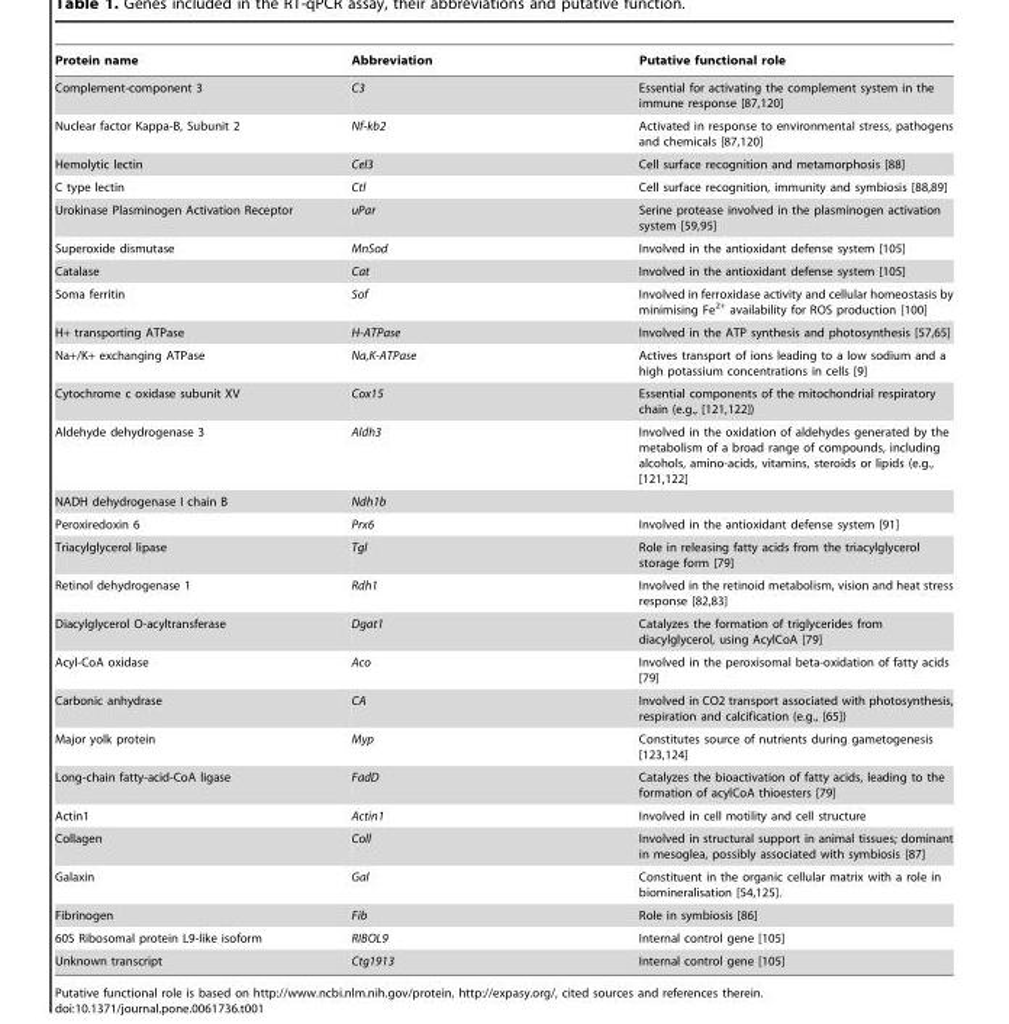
<table><thead><tr><td>Protein name</td><td>Abbreviation</td><td>Putative functional role</td></tr></thead><tbody><tr><td>Complement-component 3</td><td>C3</td><td>Essential for activating the complement system in the immune response [87,120]</td></tr><tr><td>Nuclear factor Kappa-B, Subunit 2</td><td>Nf-kb2</td><td>Activated in response to environmental stress, pathogens and chemicals [87,120]</td></tr><tr><td>Hemolytic lectin</td><td>Cel3</td><td>Cell surface recognition and metamorphosis [88]</td></tr><tr><td>C type lectin</td><td>Ctl</td><td>Cell surface recognition, immunity and symbiosis [88,89]</td></tr><tr><td>Urokinase Plasminogen Activation Receptor</td><td>uPar</td><td>Serine protease involved in the plasminogen activation system [59,95]</td></tr><tr><td>Superoxide dismutase</td><td>MnSod</td><td>Involved in the antioxidant defense system [105]</td></tr><tr><td>Catalase</td><td>Cat</td><td>Involved in the antioxidant defense system [105]</td></tr><tr><td>Soma ferritin</td><td>Sof</td><td>Involved in ferroxidase activity and cellular homeostasis by minimising Fe<sup>2+</sup> availability for ROS production [100]</td></tr><tr><td>H+ transporting ATPase</td><td>H-ATPase</td><td>Involved in the ATP synthesis and photosynthesis [57,65]</td></tr><tr><td>Na+/K+ exchanging ATPase</td><td>Na,K-ATPase</td><td>Actives transport of ions leading to a low sodium and a high potassium concentrations in cells [9]</td></tr><tr><td>Cytochrome c oxidase subunit XV</td><td>Cox15</td><td>Essential components of the mitochondrial respiratory chain (e.g., [121,122])</td></tr><tr><td>Aldehyde dehydrogenase 3</td><td>Aldh3</td><td>Involved in the oxidation of aldehydes generated by the metabolism of a broad range of compounds, including alcohols, amino-acids, vitamins, steroids or lipids (e.g., [121,122]</td></tr><tr><td>NADH dehydrogenase I chain B</td><td>Ndh1b</td><td></td></tr><tr><td>Peroxiredoxin 6</td><td>Prx6</td><td>Involved in the antioxidant defense system [91]</td></tr><tr><td>Triacylglycerol lipase</td><td>Tgl</td><td>Role in releasing fatty acids from the triacylglycerol storage form [79]</td></tr><tr><td>Retinol dehydrogenase 1</td><td>Rdh1</td><td>Involved in the retinoid metabolism, vision and heat stress response [82,83]</td></tr><tr><td>Diacylglycerol O-acyltransferase</td><td>Dgat1</td><td>Catalyzes the formation of triglycerides from diacylglycerol, using AcylCoA [79]</td></tr><tr><td>Acyl-CoA oxidase</td><td>Aco</td><td>Involved in the peroxisomal beta-oxidation of fatty acids [79]</td></tr><tr><td>Carbonic anhydrase</td><td>CA</td><td>Involved in CO2 transport associated with photosynthesis, respiration and calcification (e.g., [65])</td></tr><tr><td>Major yolk protein</td><td>Myp</td><td>Constitutes source of nutrients during gametogenesis [123,124]</td></tr><tr><td>Long-chain fatty-acid-CoA ligase</td><td>FadD</td><td>Catalyzes the bioactivation of fatty acids, leading to the formation of acylCoA thioesters [79]</td></tr><tr><td>Actin1</td><td>Actin1</td><td>Involved in cell motility and cell structure</td></tr><tr><td>Collagen</td><td>Coll</td><td>Involved in structural support in animal tissues; dominant in mesoglea, possibly associated with symbiosis [87]</td></tr><tr><td>Galaxin</td><td>Gal</td><td>Constituent in the organic cellular matrix with a role in biomineralisation [54,125].</td></tr><tr><td>Fibrinogen</td><td>Fib</td><td>Role in symbiosis [86]</td></tr><tr><td>60S Ribosomal protein L9-like isoform</td><td>RIBOL9</td><td>Internal control gene [105]</td></tr><tr><td>Unknown transcript</td><td>Ctg1913</td><td>Internal control gene [105]</td></tr></tbody></table>